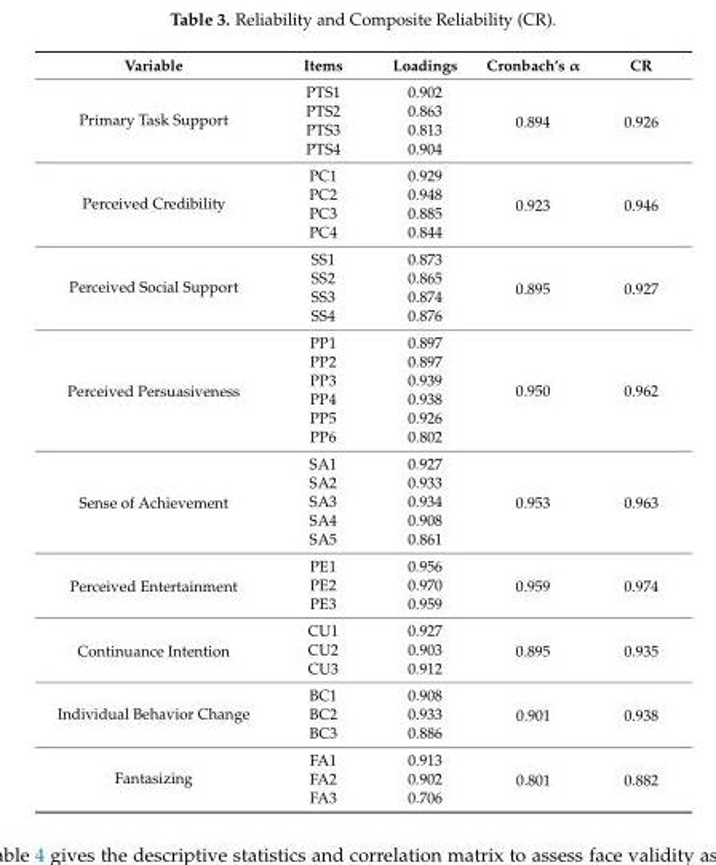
<table><thead><tr><td>Variable</td><td>Items</td><td>Loadings</td><td>Cronbach’s α</td><td>CR</td></tr></thead><tbody><tr><td rowspan="4">Primary Task Support</td><td>PTS1</td><td>0.902</td><td rowspan="4">0.894</td><td rowspan="4">0.926</td></tr><tr><td>PTS2</td><td>0.863</td></tr><tr><td>PTS3</td><td>0.813</td></tr><tr><td>PTS4</td><td>0.904</td></tr><tr><td rowspan="4">Perceived Credibility</td><td>PC1</td><td>0.929</td><td rowspan="4">0.923</td><td rowspan="4">0.946</td></tr><tr><td>PC2</td><td>0.948</td></tr><tr><td>PC3</td><td>0.885</td></tr><tr><td>PC4</td><td>0.844</td></tr><tr><td rowspan="4">Perceived Social Support</td><td>SS1</td><td>0.873</td><td rowspan="4">0.895</td><td rowspan="4">0.927</td></tr><tr><td>SS2</td><td>0.865</td></tr><tr><td>SS3</td><td>0.874</td></tr><tr><td>SS4</td><td>0.876</td></tr><tr><td rowspan="6">Perceived Persuasiveness</td><td>PP1</td><td>0.897</td><td rowspan="6">0.950</td><td rowspan="6">0.962</td></tr><tr><td>PP2</td><td>0.897</td></tr><tr><td>PP3</td><td>0.939</td></tr><tr><td>PP4</td><td>0.938</td></tr><tr><td>PP5</td><td>0.926</td></tr><tr><td>PP6</td><td>0.802</td></tr><tr><td rowspan="5">Sense of Achievement</td><td>SA1</td><td>0.927</td><td rowspan="5">0.953</td><td rowspan="5">0.963</td></tr><tr><td>SA2</td><td>0.933</td></tr><tr><td>SA3</td><td>0.934</td></tr><tr><td>SA4</td><td>0.908</td></tr><tr><td>SA5</td><td>0.861</td></tr><tr><td rowspan="3">Perceived Entertainment</td><td>PE1</td><td>0.956</td><td rowspan="3">0.959</td><td rowspan="3">0.974</td></tr><tr><td>PE2</td><td>0.970</td></tr><tr><td>PE3</td><td>0.959</td></tr><tr><td rowspan="3">Continuance Intention</td><td>CU1</td><td>0.927</td><td rowspan="3">0.895</td><td rowspan="3">0.935</td></tr><tr><td>CU2</td><td>0.903</td></tr><tr><td>CU3</td><td>0.912</td></tr><tr><td rowspan="3">Individual Behavior Change</td><td>BC1</td><td>0.908</td><td rowspan="3">0.901</td><td rowspan="3">0.938</td></tr><tr><td>BC2</td><td>0.933</td></tr><tr><td>BC3</td><td>0.886</td></tr><tr><td rowspan="3">Fantasizing</td><td>FA1</td><td>0.913</td><td rowspan="3">0.801</td><td rowspan="3">0.882</td></tr><tr><td>FA2</td><td>0.902</td></tr><tr><td>FA3</td><td>0.706</td></tr></tbody></table>